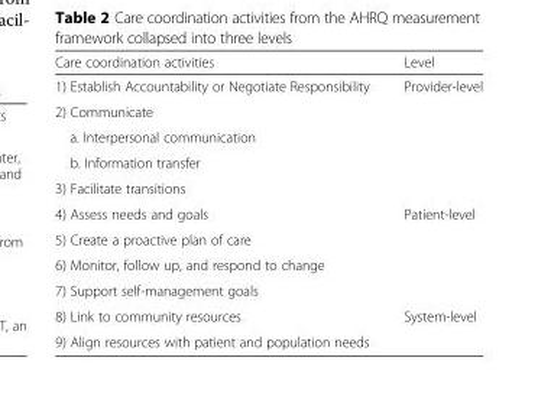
<table><thead><tr><td>Care coordination activities</td><td>Level</td></tr></thead><tbody><tr><td>1) Establish Accountability or Negotiate Responsibility</td><td rowspan="5">Provider-level</td></tr><tr><td>2) Communicate</td></tr><tr><td>a. Interpersonal communication</td></tr><tr><td>b. Information transfer</td></tr><tr><td>3) Facilitate transitions</td></tr><tr><td>4) Assess needs and goals</td><td rowspan="4">Patient-level</td></tr><tr><td>5) Create a proactive plan of care</td></tr><tr><td>6) Monitor, follow up, and respond to change</td></tr><tr><td>7) Support self-management goals</td></tr><tr><td>8) Link to community resources</td><td rowspan="2">System-level</td></tr><tr><td>9) Align resources with patient and population needs</td></tr></tbody></table>